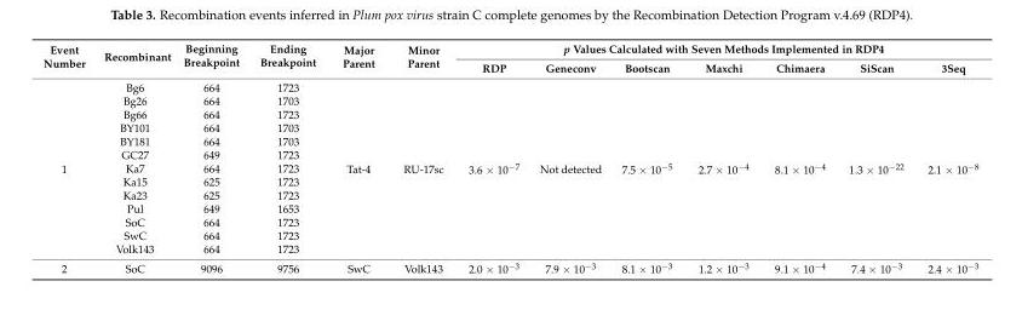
<table><thead><tr><td rowspan="2">Event Number</td><td rowspan="2">Recombinant</td><td rowspan="2">Beginning Breakpoint</td><td rowspan="2">Ending Breakpoint</td><td rowspan="2">Major Parent</td><td rowspan="2">Minor Parent</td><td colspan="7">p Values Calculated with Seven Methods Implemented in RDP4</td></tr><tr><td>RDP</td><td>Geneconv</td><td>Bootscan</td><td>Maxchi</td><td>Chimaera</td><td>SiScan</td><td>3Seq</td></tr></thead><tbody><tr><td rowspan="13">1</td><td>Bg6</td><td>664</td><td>1723</td><td rowspan="13">Tat-4</td><td rowspan="13">RU-17sc</td><td rowspan="13">3.6 × 10<sup>−7</sup></td><td rowspan="13">Not detected</td><td rowspan="13">7.5 × 10<sup>−5</sup></td><td rowspan="13">2.7 × 10<sup>−4</sup></td><td rowspan="13">8.1 × 10<sup>−4</sup></td><td rowspan="13">1.3 × 10<sup>−22</sup></td><td rowspan="13">2.1 × 10<sup>−8</sup></td></tr><tr><td>Bg26</td><td>664</td><td>1703</td></tr><tr><td>Bg66</td><td>664</td><td>1723</td></tr><tr><td>BY101</td><td>664</td><td>1703</td></tr><tr><td>BY181</td><td>664</td><td>1703</td></tr><tr><td>GC27</td><td>649</td><td>1723</td></tr><tr><td>Ka7</td><td>664</td><td>1723</td></tr><tr><td>Ka15</td><td>625</td><td>1723</td></tr><tr><td>Ka23</td><td>625</td><td>1723</td></tr><tr><td>Pul</td><td>649</td><td>1653</td></tr><tr><td>SoC</td><td>664</td><td>1723</td></tr><tr><td>SwC</td><td>664</td><td>1723</td></tr><tr><td>Volk143</td><td>664</td><td>1723</td></tr><tr><td>2</td><td>SoC</td><td>9096</td><td>9756</td><td>SwC</td><td>Volk143</td><td>2.0 × 10<sup>−3</sup></td><td>7.9 × 10<sup>−3</sup></td><td>8.1 × 10<sup>−3</sup></td><td>1.2 × 10<sup>−3</sup></td><td>9.1 × 10<sup>−4</sup></td><td>7.4 × 10<sup>−3</sup></td><td>2.4 × 10<sup>−3</sup></td></tr></tbody></table>